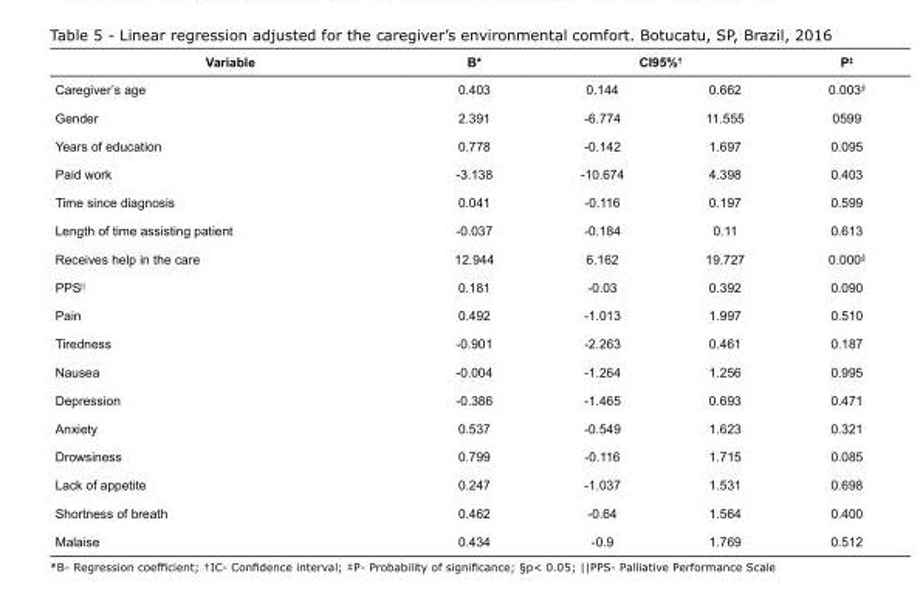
<table><tbody><tr><td>Variable</td><td>B*</td><td colspan="2">CI95%<sup>†</sup></td><td>P<sup>‡</sup></td></tr><tr><td>Caregiver’s age</td><td>0.403</td><td>0.144</td><td>0.662</td><td>0.003<sup>§</sup></td></tr><tr><td>Gender</td><td>2.391</td><td>-6.774</td><td>11.555</td><td>0599</td></tr><tr><td>Years of education</td><td>0.778</td><td>-0.142</td><td>1.697</td><td>0.095</td></tr><tr><td>Paid work</td><td>-3.138</td><td>-10.674</td><td>4.398</td><td>0.403</td></tr><tr><td>Time since diagnosis</td><td>0.041</td><td>-0.116</td><td>0.197</td><td>0.599</td></tr><tr><td>Length of time assisting patient</td><td>-0.037</td><td>-0.184</td><td>0.11</td><td>0.613</td></tr><tr><td>Receives help in the care</td><td>12.944</td><td>6.162</td><td>19.727</td><td>0.000<sup>§</sup></td></tr><tr><td>PPS<sup>||</sup></td><td>0.181</td><td>-0.03</td><td>0.392</td><td>0.090</td></tr><tr><td>Pain</td><td>0.492</td><td>-1.013</td><td>1.997</td><td>0.510</td></tr><tr><td>Tiredness</td><td>-0.901</td><td>-2.263</td><td>0.461</td><td>0.187</td></tr><tr><td>Nausea</td><td>-0.004</td><td>-1.264</td><td>1.256</td><td>0.995</td></tr><tr><td>Depression</td><td>-0.386</td><td>-1.465</td><td>0.693</td><td>0.471</td></tr><tr><td>Anxiety</td><td>0.537</td><td>-0.549</td><td>1.623</td><td>0.321</td></tr><tr><td>Drowsiness</td><td>0.799</td><td>-0.116</td><td>1.715</td><td>0.085</td></tr><tr><td>Lack of appetite</td><td>0.247</td><td>-1.037</td><td>1.531</td><td>0.698</td></tr><tr><td>Shortness of breath</td><td>0.462</td><td>-0.64</td><td>1.564</td><td>0.400</td></tr><tr><td>Malaise</td><td>0.434</td><td>-0.9</td><td>1.769</td><td>0.512</td></tr></tbody></table>